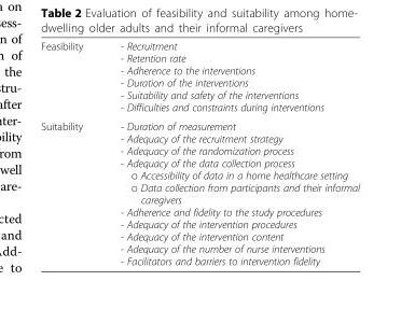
<table><tbody><tr><td>Feasibility</td><td>- Recruitment - Retention rate - Adherence to the interventions - Duration of the interventions - Suitability and safety of the interventions - Difficulties and constraints during interventions</td></tr><tr><td>Suitability</td><td>- Duration of measurement - Adequacy of the recruitment strategy - Adequacy of the randomization process - Adequacy of the data collection process o Accessibility of data in a home healthcare setting o Data collection from participants and their informal caregivers - Adherence and fidelity to the study procedures - Adequacy of the intervention procedures - Adequacy of the intervention content - Adequacy of the number of nurse interventions - Facilitators and barriers to intervention fidelity</td></tr></tbody></table>